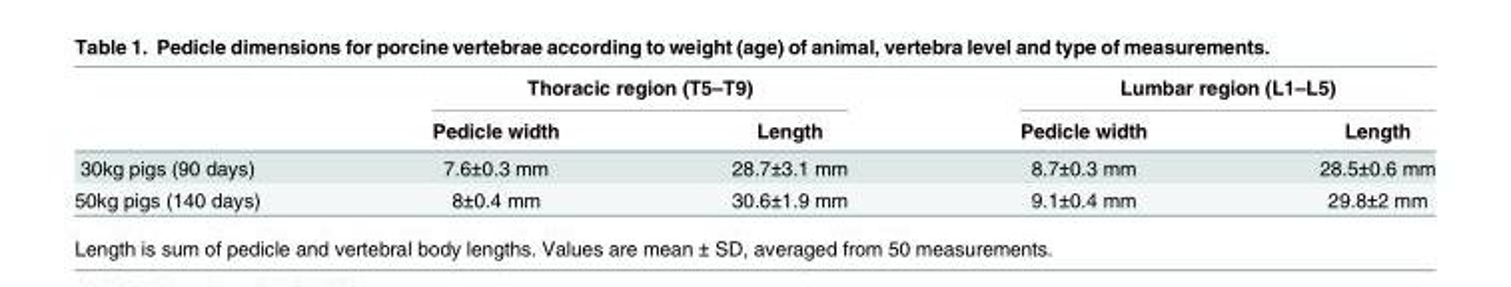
<table><thead><tr><td rowspan="2"></td><td colspan="2">Thoracic region (T5–T9)</td><td colspan="2">Lumbar region (L1–L5)</td></tr><tr><td>Pedicle width</td><td>Length</td><td>Pedicle width</td><td>Length</td></tr></thead><tbody><tr><td>30kg pigs (90 days)</td><td>7.6±0.3 mm</td><td>28.7±3.1 mm</td><td>8.7±0.3 mm</td><td>28.5±0.6 mm</td></tr><tr><td>50kg pigs (140 days)</td><td>8±0.4 mm</td><td>30.6±1.9 mm</td><td>9.1±0.4 mm</td><td>29.8±2 mm</td></tr></tbody></table>